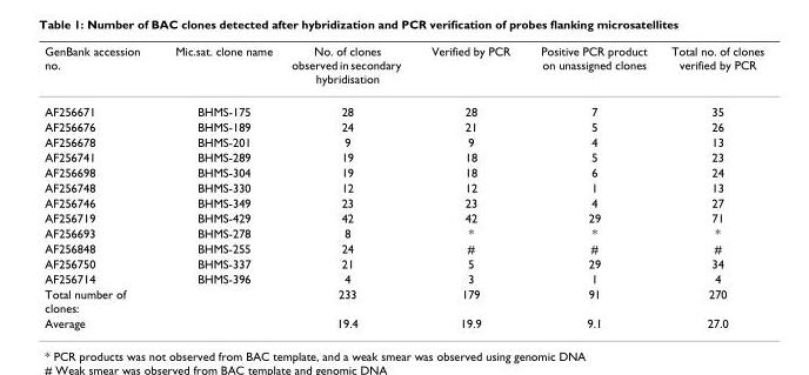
<table><thead><tr><td>GenBank accession no.</td><td>Mic.sat. clone name</td><td>No. of clones observed in secondary hybridisation</td><td>Verified by PCR</td><td>Positive PCR product on unassigned clones</td><td>Total no. of clones verified by PCR</td></tr></thead><tbody><tr><td>AF256671</td><td>BHMS-175</td><td>28</td><td>28</td><td>7</td><td>35</td></tr><tr><td>AF256676</td><td>BHMS-189</td><td>24</td><td>21</td><td>5</td><td>26</td></tr><tr><td>AF256678</td><td>BHMS-201</td><td>9</td><td>9</td><td>4</td><td>13</td></tr><tr><td>AF256741</td><td>BHMS-289</td><td>19</td><td>18</td><td>5</td><td>23</td></tr><tr><td>AF256698</td><td>BHMS-304</td><td>19</td><td>18</td><td>6</td><td>24</td></tr><tr><td>AF256748</td><td>BHMS-330</td><td>12</td><td>12</td><td>1</td><td>13</td></tr><tr><td>AF256746</td><td>BHMS-349</td><td>23</td><td>23</td><td>4</td><td>27</td></tr><tr><td>AF256719</td><td>BHMS-429</td><td>42</td><td>42</td><td>29</td><td>71</td></tr><tr><td>AF256693</td><td>BHMS-278</td><td>8</td><td>*</td><td>*</td><td>*</td></tr><tr><td>AF256848</td><td>BHMS-255</td><td>24</td><td>#</td><td>#</td><td>#</td></tr><tr><td>AF256750</td><td>BHMS-337</td><td>21</td><td>5</td><td>29</td><td>34</td></tr><tr><td>AF256714</td><td>BHMS-396</td><td>4</td><td>3</td><td>1</td><td>4</td></tr><tr><td>Total number of clones:</td><td></td><td>233</td><td>179</td><td>91</td><td>270</td></tr><tr><td>Average</td><td></td><td>19.4</td><td>19.9</td><td>9.1</td><td>27.0</td></tr></tbody></table>